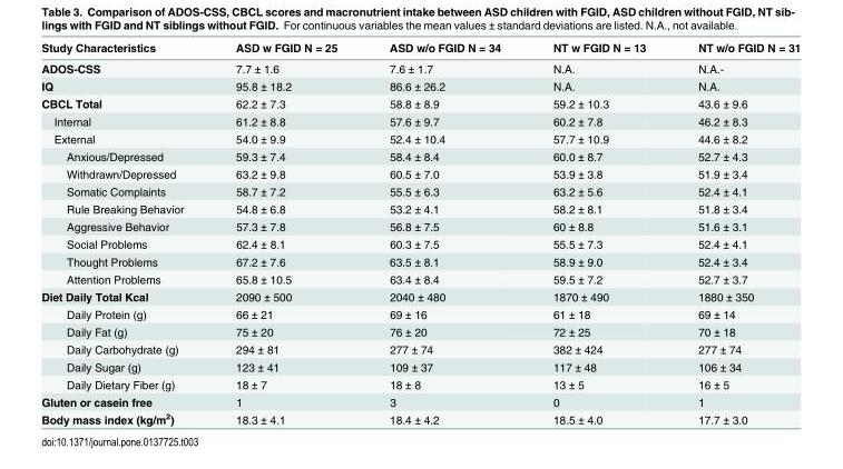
<table><thead><tr><td>Study Characteristics</td><td>ASD w FGID N = 25</td><td>ASD w/o FGID N = 34</td><td>NT w FGID N = 13</td><td>NT w/o FGID N = 31</td></tr></thead><tbody><tr><td>ADOS-CSS</td><td>7.7 ± 1.6</td><td>7.6 ± 1.7</td><td>N.A.</td><td>N.A.-</td></tr><tr><td>IQ</td><td>95.8 ± 18.2</td><td>86.6 ± 26.2</td><td>N.A.</td><td>N.A.</td></tr><tr><td>CBCL Total</td><td>62.2 ± 7.3</td><td>58.8 ± 8.9</td><td>59.2 ± 10.3</td><td>43.6 ± 9.6</td></tr><tr><td>Internal</td><td>61.2 ± 8.8</td><td>57.6 ± 9.7</td><td>60.2 ± 7.8</td><td>46.2 ± 8.3</td></tr><tr><td>External</td><td>54.0 ± 9.9</td><td>52.4 ± 10.4</td><td>57.7 ± 10.9</td><td>44.6 ± 8.2</td></tr><tr><td>Anxious/Depressed</td><td>59.3 ± 7.4</td><td>58.4 ± 8.4</td><td>60.0 ± 8.7</td><td>52.7 ± 4.3</td></tr><tr><td>Withdrawn/Depressed</td><td>63.2 ± 9.8</td><td>60.5 ± 7.0</td><td>53.9 ± 3.8</td><td>51.9 ± 3.4</td></tr><tr><td>Somatic Complaints</td><td>58.7 ± 7.2</td><td>55.5 ± 6.3</td><td>63.2 ± 5.6</td><td>52.4 ± 4.1</td></tr><tr><td>Rule Breaking Behavior</td><td>54.8 ± 6.8</td><td>53.2 ± 4.1</td><td>58.2 ± 8.1</td><td>51.8 ± 3.4</td></tr><tr><td>Aggressive Behavior</td><td>57.3 ± 7.8</td><td>56.8 ± 7.5</td><td>60 ± 8.8</td><td>51.6 ± 3.1</td></tr><tr><td>Social Problems</td><td>62.4 ± 8.1</td><td>60.3 ± 7.5</td><td>55.5 ± 7.3</td><td>52.4 ± 4.1</td></tr><tr><td>Thought Problems</td><td>67.2 ± 7.6</td><td>63.5 ± 8.1</td><td>58.9 ± 9.0</td><td>52.4 ± 3.4</td></tr><tr><td>Attention Problems</td><td>65.8 ± 10.5</td><td>63.4 ± 8.4</td><td>59.5 ± 7.2</td><td>52.7 ± 3.7</td></tr><tr><td>Diet Daily Total Kcal</td><td>2090 ± 500</td><td>2040 ± 480</td><td>1870 ± 490</td><td>1880 ± 350</td></tr><tr><td>Daily Protein (g)</td><td>66 ± 21</td><td>69 ± 16</td><td>61 ± 18</td><td>69 ± 14</td></tr><tr><td>Daily Fat (g)</td><td>75 ± 20</td><td>76 ± 20</td><td>72 ± 25</td><td>70 ± 18</td></tr><tr><td>Daily Carbohydrate (g)</td><td>294 ± 81</td><td>277 ± 74</td><td>382 ± 424</td><td>277 ± 74</td></tr><tr><td>Daily Sugar (g)</td><td>123 ± 41</td><td>109 ± 37</td><td>117 ± 48</td><td>106 ± 34</td></tr><tr><td>Daily Dietary Fiber (g)</td><td>18 ± 7</td><td>18 ± 8</td><td>13 ± 5</td><td>16 ± 5</td></tr><tr><td>Gluten or casein free</td><td>1</td><td>3</td><td>0</td><td>1</td></tr><tr><td>Body mass index (kg/m<sup>2</sup>)</td><td>18.3 ± 4.1</td><td>18.4 ± 4.2</td><td>18.5 ± 4.0</td><td>17.7 ± 3.0</td></tr></tbody></table>